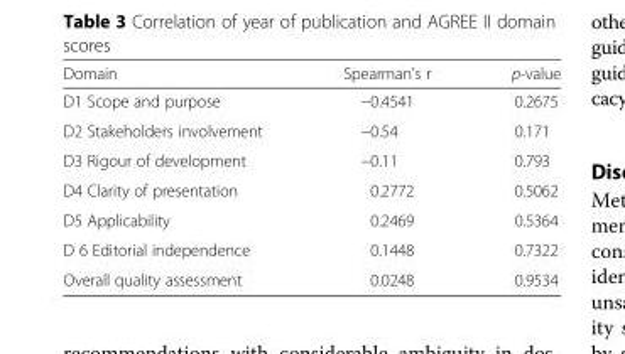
<table><thead><tr><td>Domain</td><td>Spearman’s r</td><td>p-value</td></tr></thead><tbody><tr><td>D1 Scope and purpose</td><td>−0.4541</td><td>0.2675</td></tr><tr><td>D2 Stakeholders involvement</td><td>−0.54</td><td>0.171</td></tr><tr><td>D3 Rigour of development</td><td>−0.11</td><td>0.793</td></tr><tr><td>D4 Clarity of presentation</td><td>0.2772</td><td>0.5062</td></tr><tr><td>D5 Applicability</td><td>0.2469</td><td>0.5364</td></tr><tr><td>D 6 Editorial independence</td><td>0.1448</td><td>0.7322</td></tr><tr><td>Overall quality assessment</td><td>0.0248</td><td>0.9534</td></tr></tbody></table>